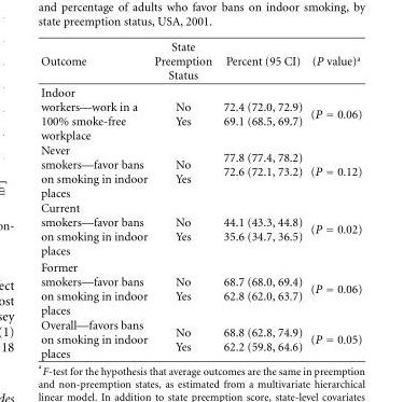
<table><thead><tr><td>Outcome</td><td>State Preemption Status</td><td>Percent (95 CI)</td><td>(P value)<sup>a</sup></td></tr></thead><tbody><tr><td>Indoor workers—work in a 100% smoke-free workplace</td><td>No Yes</td><td>72.4 (72.0, 72.9) 69.1 (68.5, 69.7)</td><td>(P = 0.06)</td></tr><tr><td>Never smokers—favor bans on smoking in indoor places</td><td>No Yes</td><td>77.8 (77.4, 78.2) 72.6 (72.1, 73.2)</td><td>(P = 0.12)</td></tr><tr><td>Current smokers—favor bans on smoking in indoor places</td><td>No Yes</td><td>44.1 (43.3, 44.8) 35.6 (34.7, 36.5)</td><td>(P = 0.02)</td></tr><tr><td>Former smokers—favor bans on smoking in indoor places</td><td>No Yes</td><td>68.7 (68.0, 69.4) 62.8 (62.0, 63.7)</td><td>(P = 0.06)</td></tr><tr><td>Overall—favors bans on smoking in indoor places</td><td>No Yes</td><td>68.8 (62.8, 74.9) 62.2 (59.8, 64.6)</td><td>(P = 0.05)</td></tr></tbody></table>